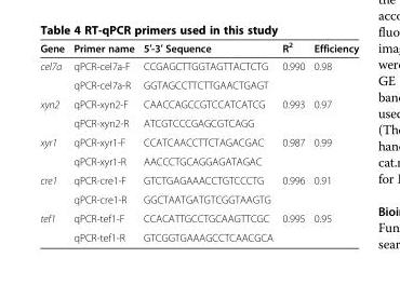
<table><thead><tr><td>Gene</td><td>Primer name</td><td>5′-3′ Sequence</td><td>R<sup>2</sup></td><td>Efficiency</td></tr></thead><tbody><tr><td rowspan="2">cel7a</td><td>qPCR-cel7a-F</td><td>CCGAGCTTGGTAGTTACTCTG</td><td rowspan="2">0.990</td><td rowspan="2">0.98</td></tr><tr><td>qPCR-cel7a-R</td><td>GGTAGCCTTCTTGAACTGAGT</td></tr><tr><td rowspan="2">xyn2</td><td>qPCR-xyn2-F</td><td>CAACCAGCCGTCCATCATCG</td><td rowspan="2">0.993</td><td rowspan="2">0.97</td></tr><tr><td>qPCR-xyn2-R</td><td>ATCGTCCCGAGCGTCAGG</td></tr><tr><td rowspan="2">xyr1</td><td>qPCR-xyr1-F</td><td>CCATCAACCTTCTAGACGAC</td><td rowspan="2">0.987</td><td rowspan="2">0.99</td></tr><tr><td>qPCR-xyr1-R</td><td>AACCCTGCAGGAGATAGAC</td></tr><tr><td rowspan="2">cre1</td><td>qPCR-cre1-F</td><td>GTCTGAGAAACCTGTCCCTG</td><td rowspan="2">0.996</td><td rowspan="2">0.91</td></tr><tr><td>qPCR-cre1-R</td><td>GGCTAATGATGTCGGTAAGTG</td></tr><tr><td rowspan="2">tef1</td><td>qPCR-tef1-F</td><td>CCACATTGCCTGCAAGTTCGC</td><td rowspan="2">0.995</td><td rowspan="2">0.95</td></tr><tr><td>qPCR-tef1-R</td><td>GTCGGTGAAAGCCTCAACGCA</td></tr></tbody></table>